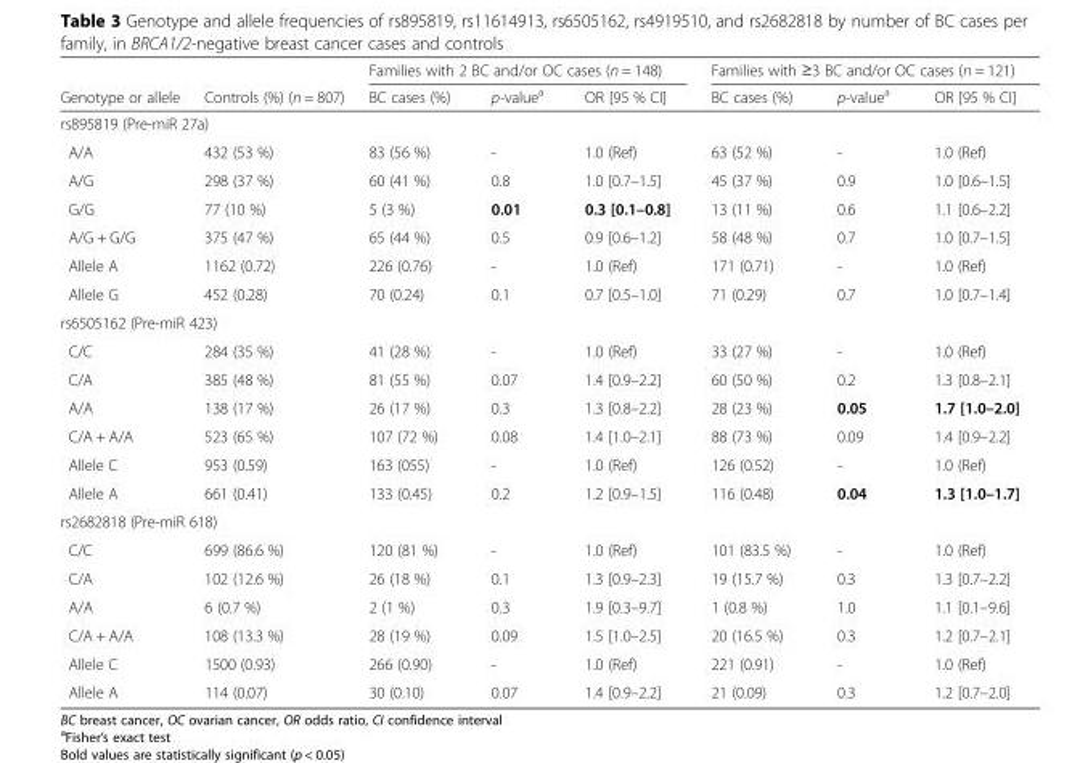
<table><thead><tr><td rowspan="2">Genotype or allele</td><td rowspan="2">Controls (%) (n = 807)</td><td colspan="3">Families with 2 BC and/or OC cases (n = 148)</td><td colspan="3">Families with ≥3 BC and/or OC cases (n = 121)</td></tr><tr><td>BC cases (%)</td><td>p-value<sup>a</sup></td><td>OR [95 % CI]</td><td>BC cases (%)</td><td>p-value<sup>a</sup></td><td>OR [95 % CI]</td></tr></thead><tbody><tr><td colspan="8">rs895819 (Pre-miR 27a)</td></tr><tr><td>A/A</td><td>432 (53 %)</td><td>83 (56 %)</td><td>-</td><td>1.0 (Ref)</td><td>63 (52 %)</td><td>-</td><td>1.0 (Ref)</td></tr><tr><td>A/G</td><td>298 (37 %)</td><td>60 (41 %)</td><td>0.8</td><td>1.0 [0.7–1.5]</td><td>45 (37 %)</td><td>0.9</td><td>1.0 [0.6–1.5]</td></tr><tr><td>G/G</td><td>77 (10 %)</td><td>5 (3 %)</td><td>0.01</td><td>0.3 [0.1–0.8]</td><td>13 (11 %)</td><td>0.6</td><td>1.1 [0.6–2.2]</td></tr><tr><td>A/G + G/G</td><td>375 (47 %)</td><td>65 (44 %)</td><td>0.5</td><td>0.9 [0.6–1.2]</td><td>58 (48 %)</td><td>0.7</td><td>1.0 [0.7–1.5]</td></tr><tr><td>Allele A</td><td>1162 (0.72)</td><td>226 (0.76)</td><td>-</td><td>1.0 (Ref)</td><td>171 (0.71)</td><td>-</td><td>1.0 (Ref)</td></tr><tr><td>Allele G</td><td>452 (0.28)</td><td>70 (0.24)</td><td>0.1</td><td>0.7 [0.5–1.0]</td><td>71 (0.29)</td><td>0.7</td><td>1.0 [0.7–1.4]</td></tr><tr><td colspan="8">rs6505162 (Pre-miR 423)</td></tr><tr><td>C/C</td><td>284 (35 %)</td><td>41 (28 %)</td><td>-</td><td>1.0 (Ref)</td><td>33 (27 %)</td><td>-</td><td>1.0 (Ref)</td></tr><tr><td>C/A</td><td>385 (48 %)</td><td>81 (55 %)</td><td>0.07</td><td>1.4 [0.9–2.2]</td><td>60 (50 %)</td><td>0.2</td><td>1.3 [0.8–2.1]</td></tr><tr><td>A/A</td><td>138 (17 %)</td><td>26 (17 %)</td><td>0.3</td><td>1.3 [0.8–2.2]</td><td>28 (23 %)</td><td>0.05</td><td>1.7 [1.0–2.0]</td></tr><tr><td>C/A + A/A</td><td>523 (65 %)</td><td>107 (72 %)</td><td>0.08</td><td>1.4 [1.0–2.1]</td><td>88 (73 %)</td><td>0.09</td><td>1.4 [0.9–2.2]</td></tr><tr><td>Allele C</td><td>953 (0.59)</td><td>163 (055)</td><td>-</td><td>1.0 (Ref)</td><td>126 (0.52)</td><td>-</td><td>1.0 (Ref)</td></tr><tr><td>Allele A</td><td>661 (0.41)</td><td>133 (0.45)</td><td>0.2</td><td>1.2 [0.9–1.5]</td><td>116 (0.48)</td><td>0.04</td><td>1.3 [1.0–1.7]</td></tr><tr><td colspan="8">rs2682818 (Pre-miR 618)</td></tr><tr><td>C/C</td><td>699 (86.6 %)</td><td>120 (81 %)</td><td>-</td><td>1.0 (Ref)</td><td>101 (83.5 %)</td><td>-</td><td>1.0 (Ref)</td></tr><tr><td>C/A</td><td>102 (12.6 %)</td><td>26 (18 %)</td><td>0.1</td><td>1.3 [0.9–2.3]</td><td>19 (15.7 %)</td><td>0.3</td><td>1.3 [0.7–2.2]</td></tr><tr><td>A/A</td><td>6 (0.7 %)</td><td>2 (1 %)</td><td>0.3</td><td>1.9 [0.3–9.7]</td><td>1 (0.8 %)</td><td>1.0</td><td>1.1 [0.1–9.6]</td></tr><tr><td>C/A + A/A</td><td>108 (13.3 %)</td><td>28 (19 %)</td><td>0.09</td><td>1.5 [1.0–2.5]</td><td>20 (16.5 %)</td><td>0.3</td><td>1.2 [0.7–2.1]</td></tr><tr><td>Allele C</td><td>1500 (0.93)</td><td>266 (0.90)</td><td>-</td><td>1.0 (Ref)</td><td>221 (0.91)</td><td>-</td><td>1.0 (Ref)</td></tr><tr><td>Allele A</td><td>114 (0.07)</td><td>30 (0.10)</td><td>0.07</td><td>1.4 [0.9–2.2]</td><td>21 (0.09)</td><td>0.3</td><td>1.2 [0.7–2.0]</td></tr></tbody></table>